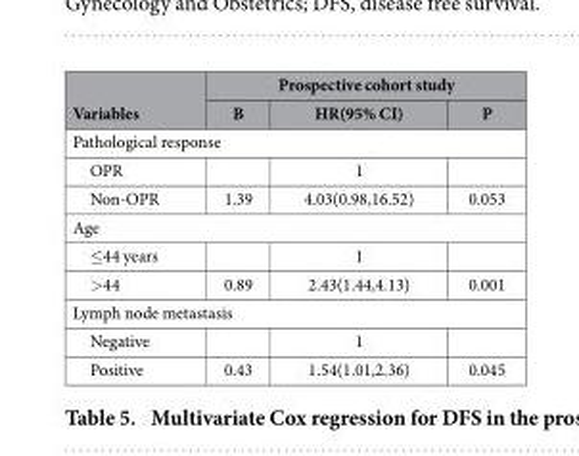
<table><thead><tr><td rowspan="2">Variables</td><td colspan="3">Prospective cohort study</td></tr><tr><td>B</td><td>HR(95% CI)</td><td>P</td></tr></thead><tbody><tr><td colspan="4">Pathological response</td></tr><tr><td>OPR</td><td></td><td>1</td><td></td></tr><tr><td>Non-OPR</td><td>1.39</td><td>4.03(0.98,16.52)</td><td>0.053</td></tr><tr><td colspan="4">Age</td></tr><tr><td>≤ 44 years</td><td></td><td>1</td><td></td></tr><tr><td>&gt; 44</td><td>0.89</td><td>2.43(1.44,4.13)</td><td>0.001</td></tr><tr><td colspan="4">Lymph node metastasis</td></tr><tr><td>Negative</td><td></td><td>1</td><td></td></tr><tr><td>Positive</td><td>0.43</td><td>1.54(1.01,2.36)</td><td>0.045</td></tr></tbody></table>